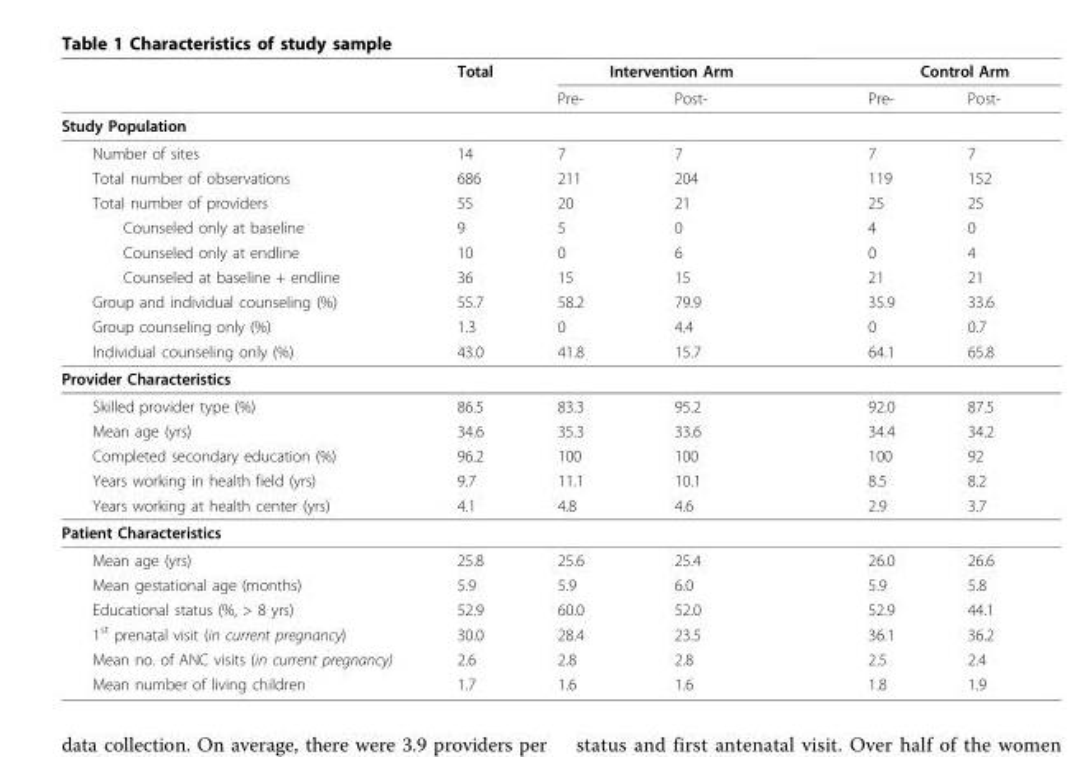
<table><thead><tr><td rowspan="2"></td><td rowspan="2">Total</td><td colspan="2">Intervention Arm</td><td colspan="2">Control Arm</td></tr><tr><td>Pre-</td><td>Post-</td><td>Pre-</td><td>Post-</td></tr></thead><tbody><tr><td colspan="6">Study Population</td></tr><tr><td>Number of sites</td><td>14</td><td>7</td><td>7</td><td>7</td><td>7</td></tr><tr><td>Total number of observations</td><td>686</td><td>211</td><td>204</td><td>119</td><td>152</td></tr><tr><td>Total number of providers</td><td>55</td><td>20</td><td>21</td><td>25</td><td>25</td></tr><tr><td>Counseled only at baseline</td><td>9</td><td>5</td><td>0</td><td>4</td><td>0</td></tr><tr><td>Counseled only at endline</td><td>10</td><td>0</td><td>6</td><td>0</td><td>4</td></tr><tr><td>Counseled at baseline + endline</td><td>36</td><td>15</td><td>15</td><td>21</td><td>21</td></tr><tr><td>Group and individual counseling (%)</td><td>55.7</td><td>58.2</td><td>79.9</td><td>35.9</td><td>33.6</td></tr><tr><td>Group counseling only (%)</td><td>1.3</td><td>0</td><td>4.4</td><td>0</td><td>0.7</td></tr><tr><td>Individual counseling only (%)</td><td>43.0</td><td>41.8</td><td>15.7</td><td>64.1</td><td>65.8</td></tr><tr><td colspan="6">Provider Characteristics</td></tr><tr><td>Skilled provider type (%)</td><td>86.5</td><td>83.3</td><td>95.2</td><td>92.0</td><td>87.5</td></tr><tr><td>Mean age (yrs)</td><td>34.6</td><td>35.3</td><td>33.6</td><td>34.4</td><td>34.2</td></tr><tr><td>Completed secondary education (%)</td><td>96.2</td><td>100</td><td>100</td><td>100</td><td>92</td></tr><tr><td>Years working in health field (yrs)</td><td>9.7</td><td>11.1</td><td>10.1</td><td>8.5</td><td>8.2</td></tr><tr><td>Years working at health center (yrs)</td><td>4.1</td><td>4.8</td><td>4.6</td><td>2.9</td><td>3.7</td></tr><tr><td colspan="6">Patient Characteristics</td></tr><tr><td>Mean age (yrs)</td><td>25.8</td><td>25.6</td><td>25.4</td><td>26.0</td><td>26.6</td></tr><tr><td>Mean gestational age (months)</td><td>5.9</td><td>5.9</td><td>6.0</td><td>5.9</td><td>5.8</td></tr><tr><td>Educational status (%, &gt; 8 yrs)</td><td>52.9</td><td>60.0</td><td>52.0</td><td>52.9</td><td>44.1</td></tr><tr><td>1<sup>st</sup> prenatal visit (in current pregnancy)</td><td>30.0</td><td>28.4</td><td>23.5</td><td>36.1</td><td>36.2</td></tr><tr><td>Mean no. of ANC visits (in current pregnancy)</td><td>2.6</td><td>2.8</td><td>2.8</td><td>2.5</td><td>2.4</td></tr><tr><td>Mean number of living children</td><td>1.7</td><td>1.6</td><td>1.6</td><td>1.8</td><td>1.9</td></tr></tbody></table>